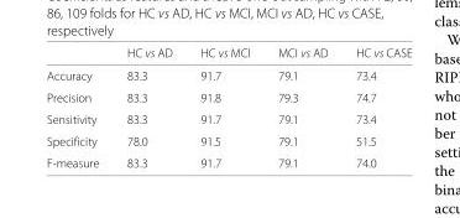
<table><thead><tr><td></td><td>HC vs AD</td><td>HC vs MCI</td><td>MCI vs AD</td><td>HC vs CASE</td></tr></thead><tbody><tr><td>Accuracy</td><td>83.3</td><td>91.7</td><td>79.1</td><td>73.4</td></tr><tr><td>Precision</td><td>83.3</td><td>91.8</td><td>79.3</td><td>74.7</td></tr><tr><td>Sensitivity</td><td>83.3</td><td>91.7</td><td>79.1</td><td>73.4</td></tr><tr><td>Specificity</td><td>78.0</td><td>91.5</td><td>79.1</td><td>51.5</td></tr><tr><td>F-measure</td><td>83.3</td><td>91.7</td><td>79.1</td><td>74.0</td></tr></tbody></table>